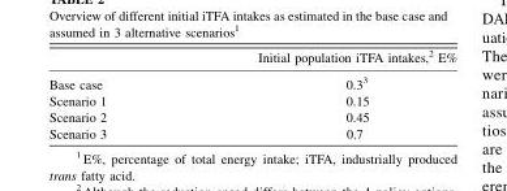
<table><thead><tr><td></td><td>Initial population iTFA intakes,<sup>2</sup> E%</td></tr></thead><tbody><tr><td>Base case</td><td>0.3<sup>3</sup></td></tr><tr><td>Scenario 1</td><td>0.15</td></tr><tr><td>Scenario 2</td><td>0.45</td></tr><tr><td>Scenario 3</td><td>0.7</td></tr></tbody></table>